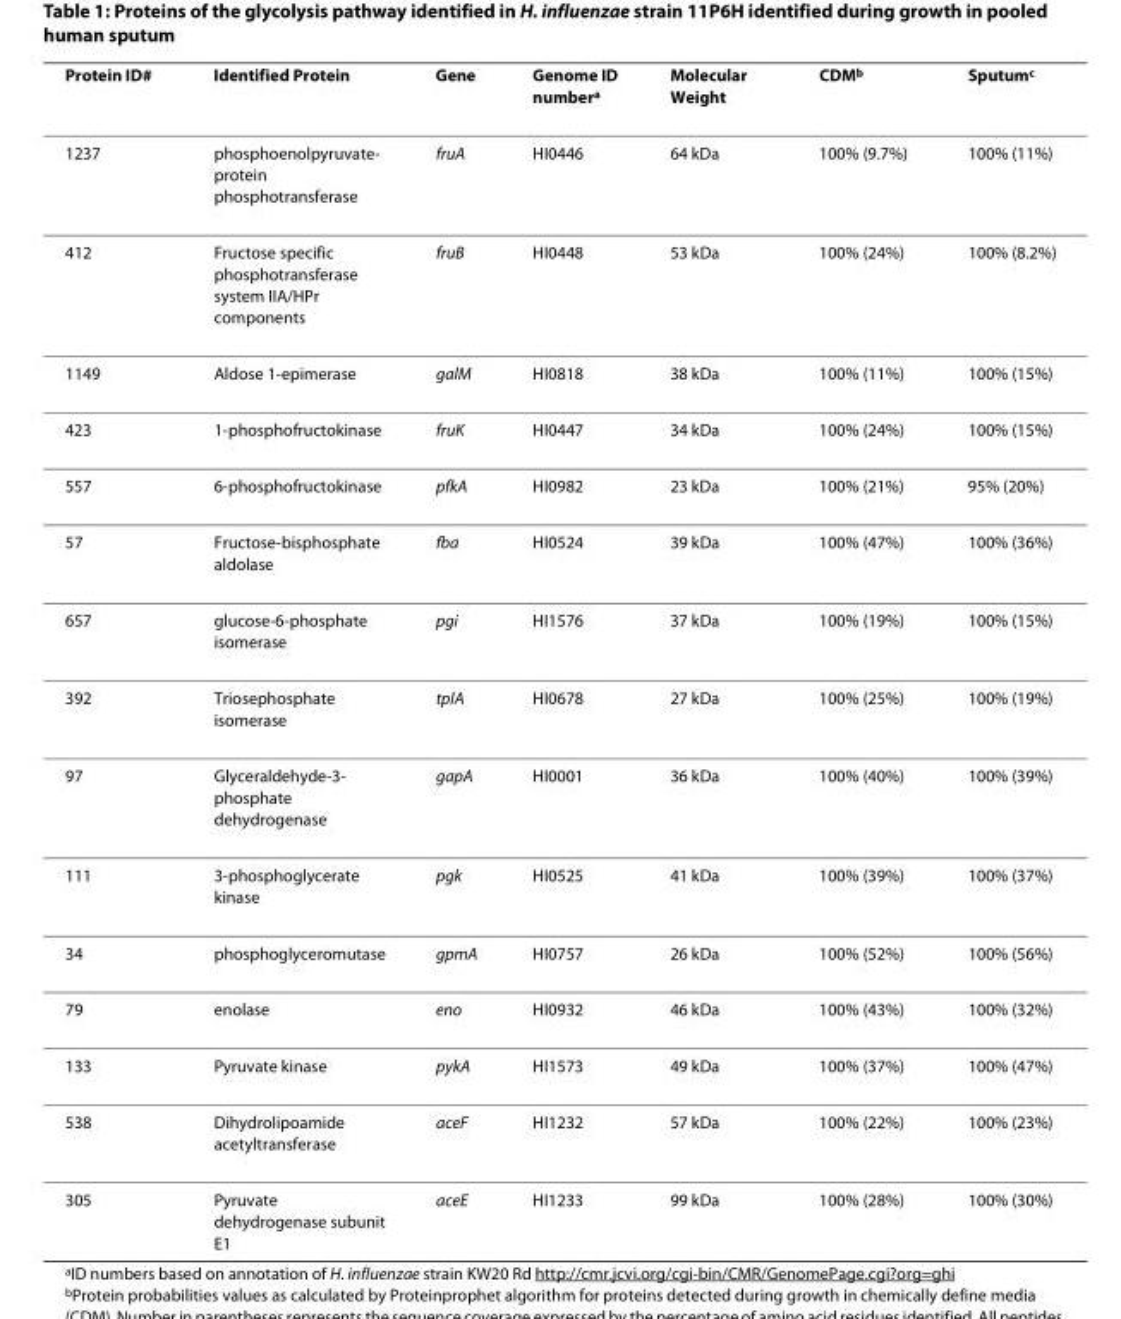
<table><thead><tr><td>Protein ID#</td><td>Identified Protein</td><td>Gene</td><td>Genome ID number<sup>a</sup></td><td>Molecular Weight</td><td>CDM<sup>b</sup></td><td>Sputum<sup>c</sup></td></tr></thead><tbody><tr><td>1237</td><td>phosphoenolpyruvate- protein phosphotransferase</td><td>fruA</td><td>HI0446</td><td>64 kDa</td><td>100% (9.7%)</td><td>100% (11%)</td></tr><tr><td>412</td><td>Fructose specific phosphotransferase system IIA/HPr components</td><td>fruB</td><td>HI0448</td><td>53 kDa</td><td>100% (24%)</td><td>100% (8.2%)</td></tr><tr><td>1149</td><td>Aldose 1-epimerase</td><td>galM</td><td>HI0818</td><td>38 kDa</td><td>100% (11%)</td><td>100% (15%)</td></tr><tr><td>423</td><td>1-phosphofructokinase</td><td>fruK</td><td>HI0447</td><td>34 kDa</td><td>100% (24%)</td><td>100% (15%)</td></tr><tr><td>557</td><td>6-phosphofructokinase</td><td>pfkA</td><td>HI0982</td><td>23 kDa</td><td>100% (21%)</td><td>95% (20%)</td></tr><tr><td>57</td><td>Fructose-bisphosphate aldolase</td><td>fba</td><td>HI0524</td><td>39 kDa</td><td>100% (47%)</td><td>100% (36%)</td></tr><tr><td>657</td><td>glucose-6-phosphate isomerase</td><td>pgi</td><td>HI1576</td><td>37 kDa</td><td>100% (19%)</td><td>100% (15%)</td></tr><tr><td>392</td><td>Triosephosphate isomerase</td><td>tplA</td><td>HI0678</td><td>27 kDa</td><td>100% (25%)</td><td>100% (19%)</td></tr><tr><td>97</td><td>Glyceraldehyde-3- phosphate dehydrogenase</td><td>gapA</td><td>HI0001</td><td>36 kDa</td><td>100% (40%)</td><td>100% (39%)</td></tr><tr><td>111</td><td>3-phosphoglycerate kinase</td><td>pgk</td><td>HI0525</td><td>41 kDa</td><td>100% (39%)</td><td>100% (37%)</td></tr><tr><td>34</td><td>phosphoglyceromutase</td><td>gpmA</td><td>HI0757</td><td>26 kDa</td><td>100% (52%)</td><td>100% (56%)</td></tr><tr><td>79</td><td>enolase</td><td>eno</td><td>HI0932</td><td>46 kDa</td><td>100% (43%)</td><td>100% (32%)</td></tr><tr><td>133</td><td>Pyruvate kinase</td><td>pykA</td><td>HI1573</td><td>49 kDa</td><td>100% (37%)</td><td>100% (47%)</td></tr><tr><td>538</td><td>Dihydrolipoamide acetyltransferase</td><td>aceF</td><td>HI1232</td><td>57 kDa</td><td>100% (22%)</td><td>100% (23%)</td></tr><tr><td>305</td><td>Pyruvate dehydrogenase subunit E1</td><td>aceE</td><td>HI1233</td><td>99 kDa</td><td>100% (28%)</td><td>100% (30%)</td></tr></tbody></table>